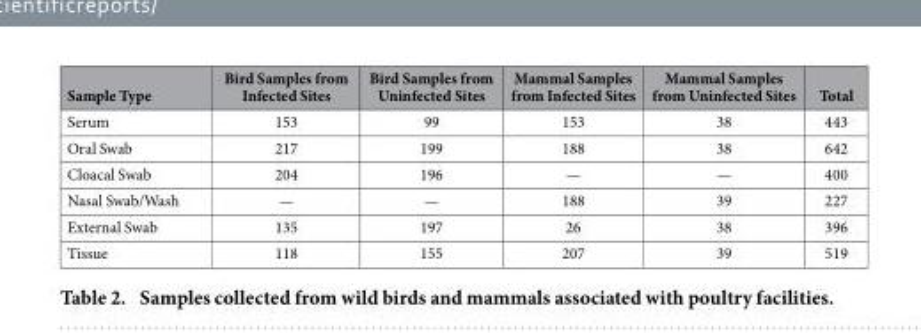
<table><thead><tr><td>Sample Type</td><td>Bird Samples from Infected Sites</td><td>Bird Samples from Uninfected Sites</td><td>Mammal Samples from Infected Sites</td><td>Mammal Samples from Uninfected Sites</td><td>Total</td></tr></thead><tbody><tr><td>Serum</td><td>153</td><td>99</td><td>153</td><td>38</td><td>443</td></tr><tr><td>Oral Swab</td><td>217</td><td>199</td><td>188</td><td>38</td><td>642</td></tr><tr><td>Cloacal Swab</td><td>204</td><td>196</td><td>—</td><td>—</td><td>400</td></tr><tr><td>Nasal Swab/Wash</td><td>—</td><td>—</td><td>188</td><td>39</td><td>227</td></tr><tr><td>External Swab</td><td>135</td><td>197</td><td>26</td><td>38</td><td>396</td></tr><tr><td>Tissue</td><td>118</td><td>155</td><td>207</td><td>39</td><td>519</td></tr></tbody></table>